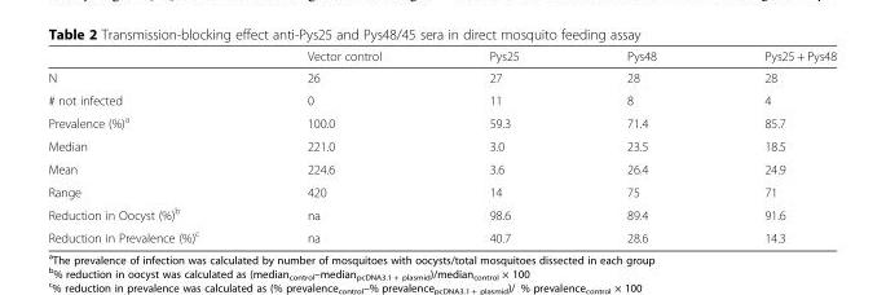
<table><thead><tr><td></td><td>Vector control</td><td>Pys25</td><td>Pys48</td><td>Pys25 + Pys48</td></tr></thead><tbody><tr><td>N</td><td>26</td><td>27</td><td>28</td><td>28</td></tr><tr><td># not infected</td><td>0</td><td>11</td><td>8</td><td>4</td></tr><tr><td>Prevalence (%)<sup>a</sup></td><td>100.0</td><td>59.3</td><td>71.4</td><td>85.7</td></tr><tr><td>Median</td><td>221.0</td><td>3.0</td><td>23.5</td><td>18.5</td></tr><tr><td>Mean</td><td>224.6</td><td>3.6</td><td>26.4</td><td>24.9</td></tr><tr><td>Range</td><td>420</td><td>14</td><td>75</td><td>71</td></tr><tr><td>Reduction in Oocyst (%)<sup>b</sup></td><td>na</td><td>98.6</td><td>89.4</td><td>91.6</td></tr><tr><td>Reduction in Prevalence (%)<sup>c</sup></td><td>na</td><td>40.7</td><td>28.6</td><td>14.3</td></tr></tbody></table>